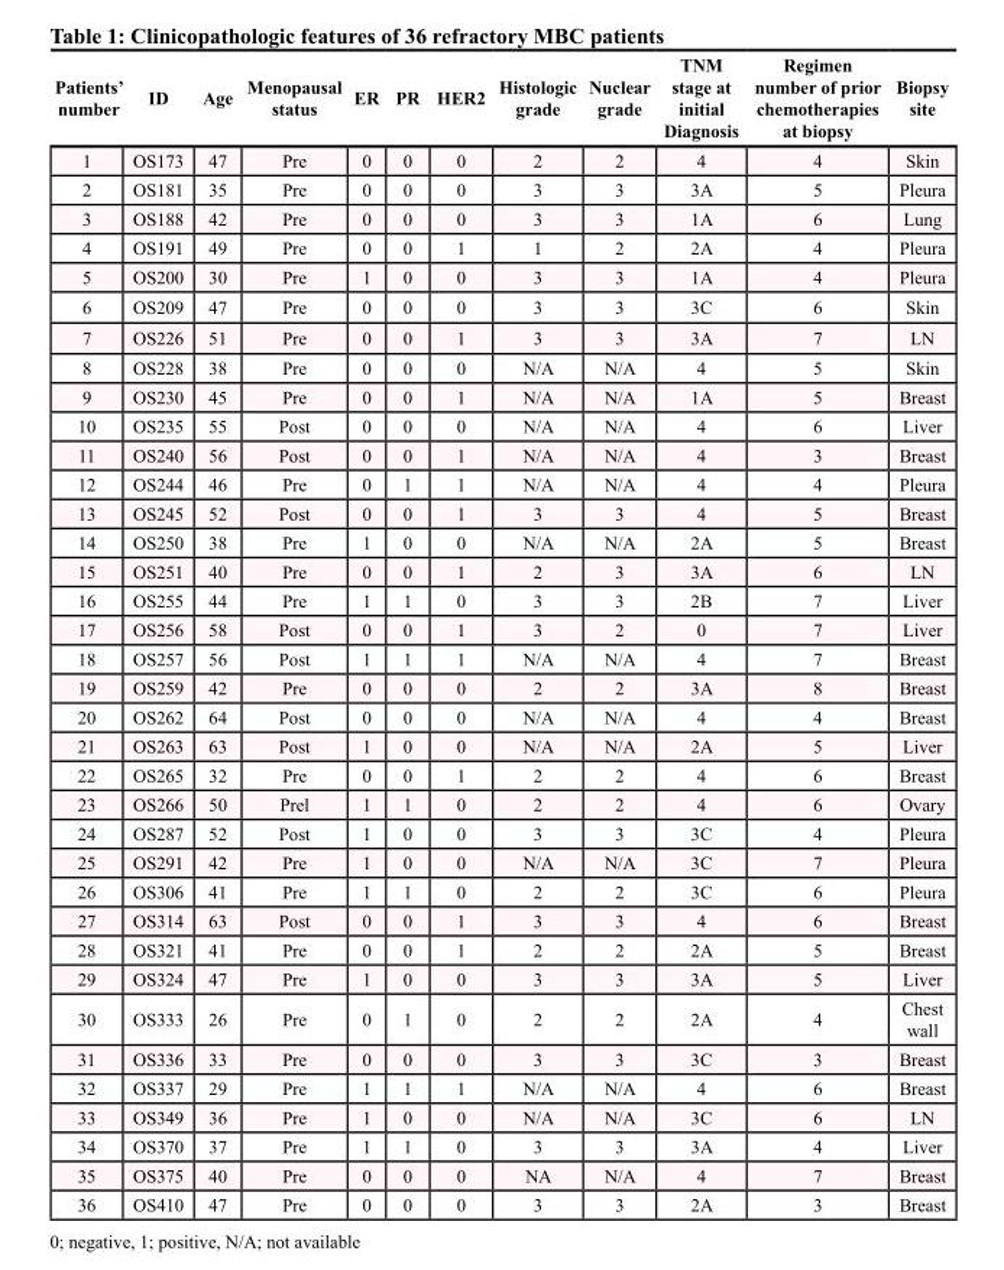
<table><thead><tr><td>Patients’ number</td><td>ID</td><td>Age</td><td>Menopausal status</td><td>ER</td><td>PR</td><td>HER2</td><td>Histologic grade</td><td>Nuclear grade</td><td>TNM stage at initial Diagnosis</td><td>Regimen number of prior chemotherapies at biopsy</td><td>Biopsy site</td></tr></thead><tbody><tr><td>1</td><td>OS173</td><td>47</td><td>Pre</td><td>0</td><td>0</td><td>0</td><td>2</td><td>2</td><td>4</td><td>4</td><td>Skin</td></tr><tr><td>2</td><td>OS181</td><td>35</td><td>Pre</td><td>0</td><td>0</td><td>0</td><td>3</td><td>3</td><td>3A</td><td>5</td><td>Pleura</td></tr><tr><td>3</td><td>OS188</td><td>42</td><td>Pre</td><td>0</td><td>0</td><td>0</td><td>3</td><td>3</td><td>1A</td><td>6</td><td>Lung</td></tr><tr><td>4</td><td>OS191</td><td>49</td><td>Pre</td><td>0</td><td>0</td><td>1</td><td>1</td><td>2</td><td>2A</td><td>4</td><td>Pleura</td></tr><tr><td>5</td><td>OS200</td><td>30</td><td>Pre</td><td>1</td><td>0</td><td>0</td><td>3</td><td>3</td><td>1A</td><td>4</td><td>Pleura</td></tr><tr><td>6</td><td>OS209</td><td>47</td><td>Pre</td><td>0</td><td>0</td><td>0</td><td>3</td><td>3</td><td>3C</td><td>6</td><td>Skin</td></tr><tr><td>7</td><td>OS226</td><td>51</td><td>Pre</td><td>0</td><td>0</td><td>1</td><td>3</td><td>3</td><td>3A</td><td>7</td><td>LN</td></tr><tr><td>8</td><td>OS228</td><td>38</td><td>Pre</td><td>0</td><td>0</td><td>0</td><td>N/A</td><td>N/A</td><td>4</td><td>5</td><td>Skin</td></tr><tr><td>9</td><td>OS230</td><td>45</td><td>Pre</td><td>0</td><td>0</td><td>1</td><td>N/A</td><td>N/A</td><td>1A</td><td>5</td><td>Breast</td></tr><tr><td>10</td><td>OS235</td><td>55</td><td>Post</td><td>0</td><td>0</td><td>0</td><td>N/A</td><td>N/A</td><td>4</td><td>6</td><td>Liver</td></tr><tr><td>11</td><td>OS240</td><td>56</td><td>Post</td><td>0</td><td>0</td><td>1</td><td>N/A</td><td>N/A</td><td>4</td><td>3</td><td>Breast</td></tr><tr><td>12</td><td>OS244</td><td>46</td><td>Pre</td><td>0</td><td>1</td><td>1</td><td>N/A</td><td>N/A</td><td>4</td><td>4</td><td>Pleura</td></tr><tr><td>13</td><td>OS245</td><td>52</td><td>Post</td><td>0</td><td>0</td><td>1</td><td>3</td><td>3</td><td>4</td><td>5</td><td>Breast</td></tr><tr><td>14</td><td>OS250</td><td>38</td><td>Pre</td><td>1</td><td>0</td><td>0</td><td>N/A</td><td>N/A</td><td>2A</td><td>5</td><td>Breast</td></tr><tr><td>15</td><td>OS251</td><td>40</td><td>Pre</td><td>0</td><td>0</td><td>1</td><td>2</td><td>3</td><td>3A</td><td>6</td><td>LN</td></tr><tr><td>16</td><td>OS255</td><td>44</td><td>Pre</td><td>1</td><td>1</td><td>0</td><td>3</td><td>3</td><td>2B</td><td>7</td><td>Liver</td></tr><tr><td>17</td><td>OS256</td><td>58</td><td>Post</td><td>0</td><td>0</td><td>1</td><td>3</td><td>2</td><td>0</td><td>7</td><td>Liver</td></tr><tr><td>18</td><td>OS257</td><td>56</td><td>Post</td><td>1</td><td>1</td><td>1</td><td>N/A</td><td>N/A</td><td>4</td><td>7</td><td>Breast</td></tr><tr><td>19</td><td>OS259</td><td>42</td><td>Pre</td><td>0</td><td>0</td><td>0</td><td>2</td><td>2</td><td>3A</td><td>8</td><td>Breast</td></tr><tr><td>20</td><td>OS262</td><td>64</td><td>Post</td><td>0</td><td>0</td><td>0</td><td>N/A</td><td>N/A</td><td>4</td><td>4</td><td>Breast</td></tr><tr><td>21</td><td>OS263</td><td>63</td><td>Post</td><td>1</td><td>0</td><td>0</td><td>N/A</td><td>N/A</td><td>2A</td><td>5</td><td>Liver</td></tr><tr><td>22</td><td>OS265</td><td>32</td><td>Pre</td><td>0</td><td>0</td><td>1</td><td>2</td><td>2</td><td>4</td><td>6</td><td>Breast</td></tr><tr><td>23</td><td>OS266</td><td>50</td><td>Prel</td><td>1</td><td>1</td><td>0</td><td>2</td><td>2</td><td>4</td><td>6</td><td>Ovary</td></tr><tr><td>24</td><td>OS287</td><td>52</td><td>Post</td><td>1</td><td>0</td><td>0</td><td>3</td><td>3</td><td>3C</td><td>4</td><td>Pleura</td></tr><tr><td>25</td><td>OS291</td><td>42</td><td>Pre</td><td>1</td><td>0</td><td>0</td><td>N/A</td><td>N/A</td><td>3C</td><td>7</td><td>Pleura</td></tr><tr><td>26</td><td>OS306</td><td>41</td><td>Pre</td><td>1</td><td>1</td><td>0</td><td>2</td><td>2</td><td>3C</td><td>6</td><td>Pleura</td></tr><tr><td>27</td><td>OS314</td><td>63</td><td>Post</td><td>0</td><td>0</td><td>1</td><td>3</td><td>3</td><td>4</td><td>6</td><td>Breast</td></tr><tr><td>28</td><td>OS321</td><td>41</td><td>Pre</td><td>0</td><td>0</td><td>1</td><td>2</td><td>2</td><td>2A</td><td>5</td><td>Breast</td></tr><tr><td>29</td><td>OS324</td><td>47</td><td>Pre</td><td>1</td><td>0</td><td>0</td><td>3</td><td>3</td><td>3A</td><td>5</td><td>Liver</td></tr><tr><td>30</td><td>OS333</td><td>26</td><td>Pre</td><td>0</td><td>1</td><td>0</td><td>2</td><td>2</td><td>2A</td><td>4</td><td>Chest wall</td></tr><tr><td>31</td><td>OS336</td><td>33</td><td>Pre</td><td>0</td><td>0</td><td>0</td><td>3</td><td>3</td><td>3C</td><td>3</td><td>Breast</td></tr><tr><td>32</td><td>OS337</td><td>29</td><td>Pre</td><td>1</td><td>1</td><td>1</td><td>N/A</td><td>N/A</td><td>4</td><td>6</td><td>Breast</td></tr><tr><td>33</td><td>OS349</td><td>36</td><td>Pre</td><td>1</td><td>0</td><td>0</td><td>N/A</td><td>N/A</td><td>3C</td><td>6</td><td>LN</td></tr><tr><td>34</td><td>OS370</td><td>37</td><td>Pre</td><td>1</td><td>1</td><td>0</td><td>3</td><td>3</td><td>3A</td><td>4</td><td>Liver</td></tr><tr><td>35</td><td>OS375</td><td>40</td><td>Pre</td><td>0</td><td>0</td><td>0</td><td>NA</td><td>N/A</td><td>4</td><td>7</td><td>Breast</td></tr><tr><td>36</td><td>OS410</td><td>47</td><td>Pre</td><td>0</td><td>0</td><td>0</td><td>3</td><td>3</td><td>2A</td><td>3</td><td>Breast</td></tr></tbody></table>